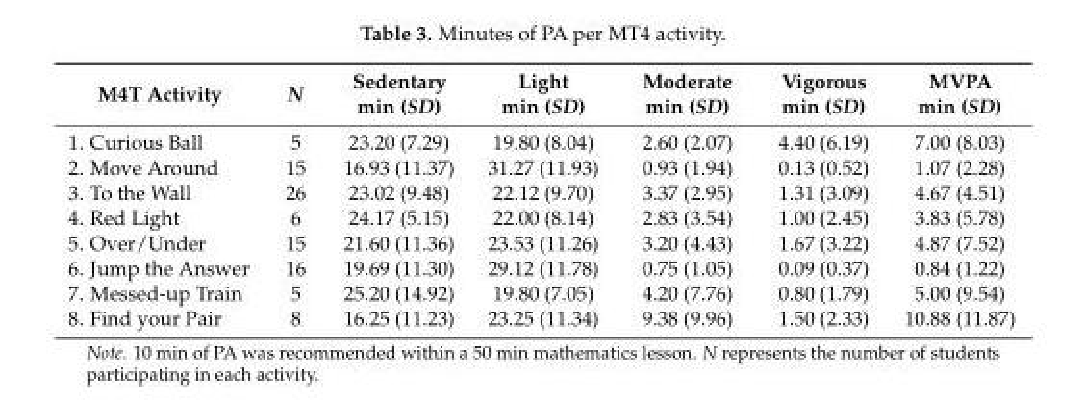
<table><thead><tr><td>M4T Activity</td><td>N</td><td>Sedentary min (SD)</td><td>Light min (SD)</td><td>Moderate min (SD)</td><td>Vigorous min (SD)</td><td>MVPA min (SD)</td></tr></thead><tbody><tr><td>1. Curious Ball</td><td>5</td><td>23.20 (7.29)</td><td>19.80 (8.04)</td><td>2.60 (2.07)</td><td>4.40 (6.19)</td><td>7.00 (8.03)</td></tr><tr><td>2. Move Around</td><td>15</td><td>16.93 (11.37)</td><td>31.27 (11.93)</td><td>0.93 (1.94)</td><td>0.13 (0.52)</td><td>1.07 (2.28)</td></tr><tr><td>3. To the Wall</td><td>26</td><td>23.02 (9.48)</td><td>22.12 (9.70)</td><td>3.37 (2.95)</td><td>1.31 (3.09)</td><td>4.67 (4.51)</td></tr><tr><td>4. Red Light</td><td>6</td><td>24.17 (5.15)</td><td>22.00 (8.14)</td><td>2.83 (3.54)</td><td>1.00 (2.45)</td><td>3.83 (5.78)</td></tr><tr><td>5. Over/Under</td><td>15</td><td>21.60 (11.36)</td><td>23.53 (11.26)</td><td>3.20 (4.43)</td><td>1.67 (3.22)</td><td>4.87 (7.52)</td></tr><tr><td>6. Jump the Answer</td><td>16</td><td>19.69 (11.30)</td><td>29.12 (11.78)</td><td>0.75 (1.05)</td><td>0.09 (0.37)</td><td>0.84 (1.22)</td></tr><tr><td>7. Messed-up Train</td><td>5</td><td>25.20 (14.92)</td><td>19.80 (7.05)</td><td>4.20 (7.76)</td><td>0.80 (1.79)</td><td>5.00 (9.54)</td></tr><tr><td>8. Find your Pair</td><td>8</td><td>16.25 (11.23)</td><td>23.25 (11.34)</td><td>9.38 (9.96)</td><td>1.50 (2.33)</td><td>10.88 (11.87)</td></tr></tbody></table>